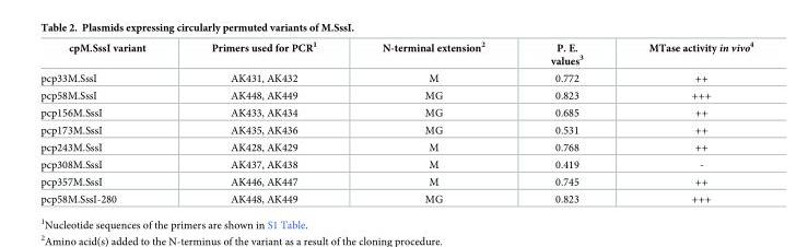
<table><thead><tr><td>cpM.SssI variant</td><td>Primers used for PCR<sup>1</sup></td><td>N-terminal extension<sup>2</sup></td><td>P. E. values<sup>3</sup></td><td>MTase activity in vivo<sup>4</sup></td></tr></thead><tbody><tr><td>pcp33M.SssI</td><td>AK431, AK432</td><td>M</td><td>0.772</td><td>++</td></tr><tr><td>pcp58M.SssI</td><td>AK448, AK449</td><td>MG</td><td>0.823</td><td>+++</td></tr><tr><td>pcp156M.SssI</td><td>AK433, AK434</td><td>MG</td><td>0.685</td><td>++</td></tr><tr><td>pcp173M.SssI</td><td>AK435, AK436</td><td>MG</td><td>0.531</td><td>++</td></tr><tr><td>pcp243M.SssI</td><td>AK428, AK429</td><td>M</td><td>0.768</td><td>++</td></tr><tr><td>pcp308M.SssI</td><td>AK437, AK438</td><td>M</td><td>0.419</td><td>-</td></tr><tr><td>pcp357M.SssI</td><td>AK446, AK447</td><td>M</td><td>0.745</td><td>++</td></tr><tr><td>pcp58M.SssI-280</td><td>AK448, AK449</td><td>MG</td><td>0.823</td><td>+++</td></tr></tbody></table>